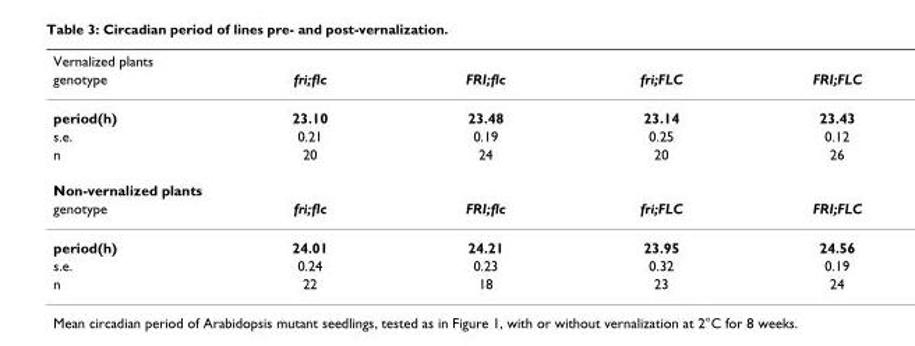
<table><thead><tr><td colspan="5">Vernalized plants</td></tr><tr><td>genotype</td><td>fri;flc</td><td>FRI;flc</td><td>fri;FLC</td><td>FRI;FLC</td></tr></thead><tbody><tr><td>period(h)</td><td>23.10</td><td>23.48</td><td>23.14</td><td>23.43</td></tr><tr><td>s.e.</td><td>0.21</td><td>0.19</td><td>0.25</td><td>0.12</td></tr><tr><td>n</td><td>20</td><td>24</td><td>20</td><td>26</td></tr><tr><td colspan="5">Non-vernalized plants</td></tr><tr><td>genotype</td><td>fri;flc</td><td>FRI;flc</td><td>fri;FLC</td><td>FRI;FLC</td></tr><tr><td>period(h)</td><td>24.01</td><td>24.21</td><td>23.95</td><td>24.56</td></tr><tr><td>s.e.</td><td>0.24</td><td>0.23</td><td>0.32</td><td>0.19</td></tr><tr><td>n</td><td>22</td><td>18</td><td>23</td><td>24</td></tr></tbody></table>